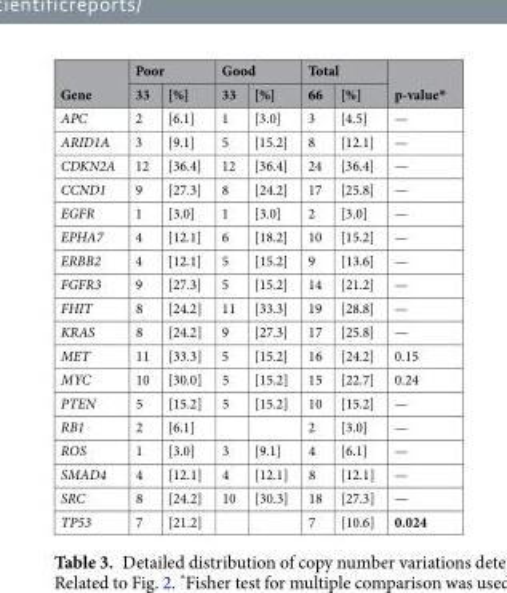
<table><thead><tr><td rowspan="2">Gene</td><td colspan="2">Poor</td><td colspan="2">Good</td><td colspan="2">Total</td><td rowspan="2">p-value*</td></tr><tr><td>33</td><td>[%]</td><td>33</td><td>[%]</td><td>66</td><td>[%]</td></tr></thead><tbody><tr><td>APC</td><td>2</td><td>[6.1]</td><td>1</td><td>[3.0]</td><td>3</td><td>[4.5]</td><td>—</td></tr><tr><td>ARID1A</td><td>3</td><td>[9.1]</td><td>5</td><td>[15.2]</td><td>8</td><td>[12.1]</td><td>—</td></tr><tr><td>CDKN2A</td><td>12</td><td>[36.4]</td><td>12</td><td>[36.4]</td><td>24</td><td>[36.4]</td><td>—</td></tr><tr><td>CCND1</td><td>9</td><td>[27.3]</td><td>8</td><td>[24.2]</td><td>17</td><td>[25.8]</td><td>—</td></tr><tr><td>EGFR</td><td>1</td><td>[3.0]</td><td>1</td><td>[3.0]</td><td>2</td><td>[3.0]</td><td>—</td></tr><tr><td>EPHA7</td><td>4</td><td>[12.1]</td><td>6</td><td>[18.2]</td><td>10</td><td>[15.2]</td><td>—</td></tr><tr><td>ERBB2</td><td>4</td><td>[12.1]</td><td>5</td><td>[15.2]</td><td>9</td><td>[13.6]</td><td>—</td></tr><tr><td>FGFR3</td><td>9</td><td>[27.3]</td><td>5</td><td>[15.2]</td><td>14</td><td>[21.2]</td><td>—</td></tr><tr><td>FHIT</td><td>8</td><td>[24.2]</td><td>11</td><td>[33.3]</td><td>19</td><td>[28.8]</td><td>—</td></tr><tr><td>KRAS</td><td>8</td><td>[24.2]</td><td>9</td><td>[27.3]</td><td>17</td><td>[25.8]</td><td>—</td></tr><tr><td>MET</td><td>11</td><td>[33.3]</td><td>5</td><td>[15.2]</td><td>16</td><td>[24.2]</td><td>0.15</td></tr><tr><td>MYC</td><td>10</td><td>[30.0]</td><td>5</td><td>[15.2]</td><td>15</td><td>[22.7]</td><td>0.24</td></tr><tr><td>PTEN</td><td>5</td><td>[15.2]</td><td>5</td><td>[15.2]</td><td>10</td><td>[15.2]</td><td>—</td></tr><tr><td>RB1</td><td>2</td><td>[6.1]</td><td></td><td></td><td>2</td><td>[3.0]</td><td>—</td></tr><tr><td>ROS</td><td>1</td><td>[3.0]</td><td>3</td><td>[9.1]</td><td>4</td><td>[6.1]</td><td>—</td></tr><tr><td>SMAD4</td><td>4</td><td>[12.1]</td><td>4</td><td>[12.1]</td><td>8</td><td>[12.1]</td><td>—</td></tr><tr><td>SRC</td><td>8</td><td>[24.2]</td><td>10</td><td>[30.3]</td><td>18</td><td>[27.3]</td><td>—</td></tr><tr><td>TP53</td><td>7</td><td>[21.2]</td><td></td><td></td><td>7</td><td>[10.6]</td><td>0.024</td></tr></tbody></table>